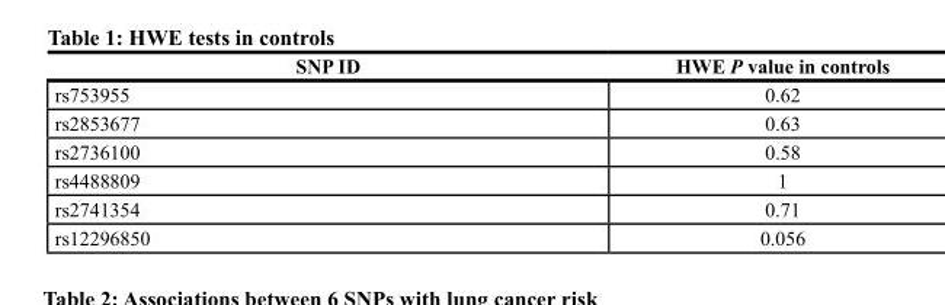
<table><thead><tr><td>snP Id</td><td>HWe P value in controls</td></tr></thead><tbody><tr><td>rs753955</td><td>0.62</td></tr><tr><td>rs2853677</td><td>0.63</td></tr><tr><td>rs2736100</td><td>0.58</td></tr><tr><td>rs4488809</td><td>1</td></tr><tr><td>rs2741354</td><td>0.71</td></tr><tr><td>rs12296850</td><td>0.056</td></tr></tbody></table>